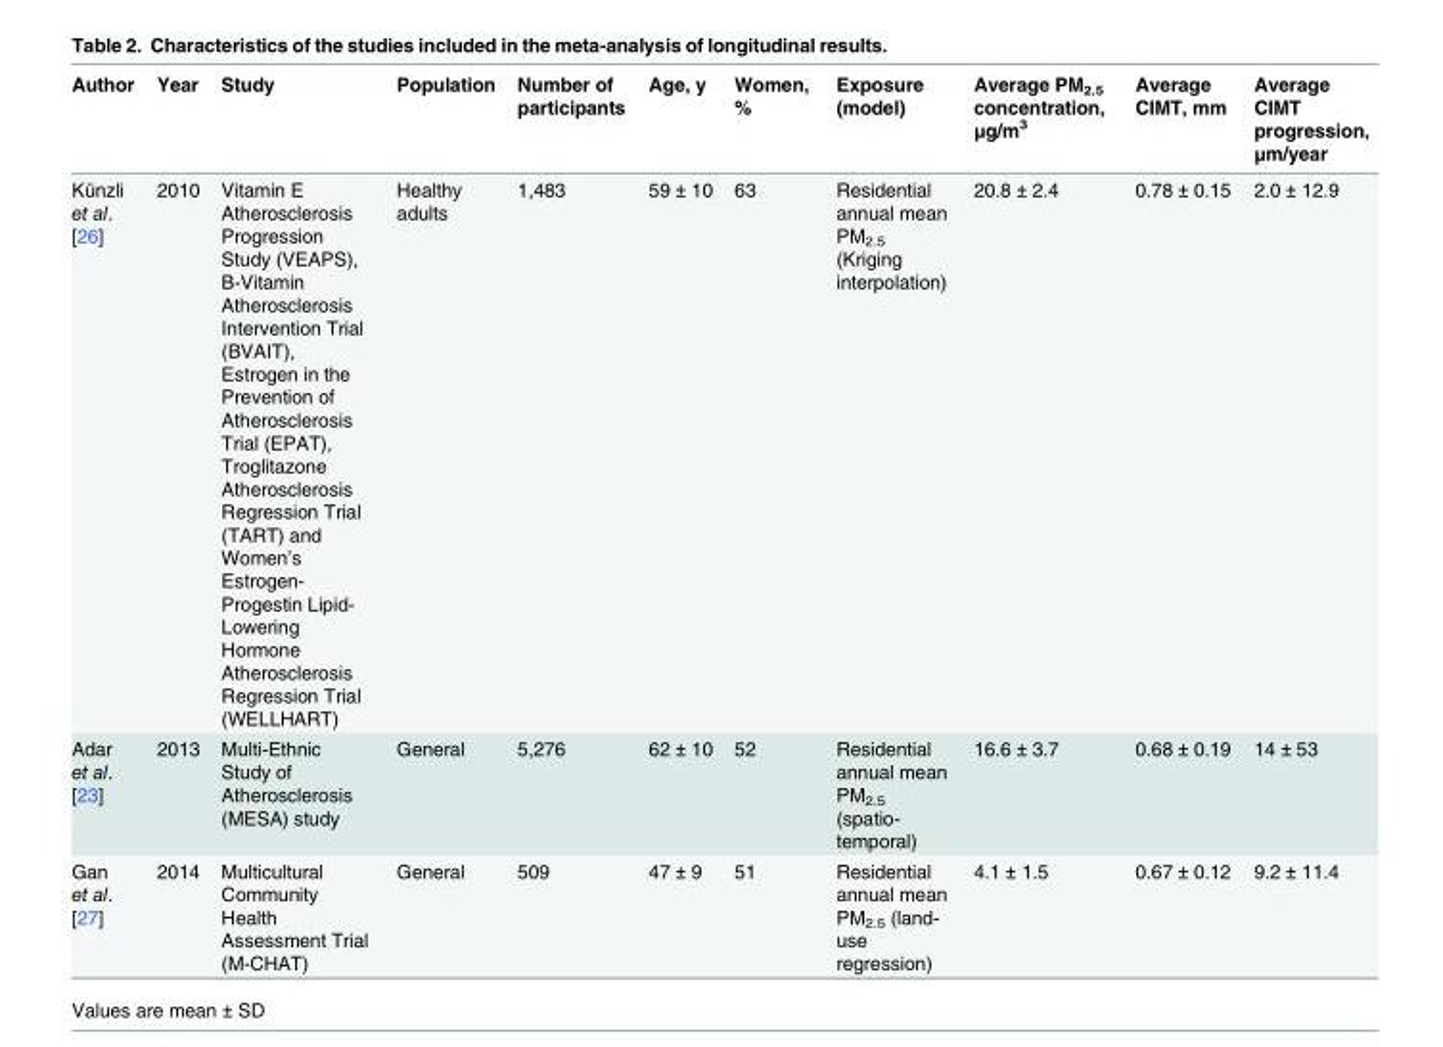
<table><thead><tr><td>Author</td><td>Year</td><td>Study</td><td>Population</td><td>Number of participants</td><td>Age, y</td><td>Women, %</td><td>Exposure (model)</td><td>Average PM<sub>2.5</sub> concentration, μg/m<sup>3</sup></td><td>Average CIMT, mm</td><td>Average CIMT progression, μm/year</td></tr></thead><tbody><tr><td>Künzli et al. [26]</td><td>2010</td><td>Vitamin E Atherosclerosis Progression Study (VEAPS), B-Vitamin Atherosclerosis Intervention Trial (BVAIT), Estrogen in the Prevention of Atherosclerosis Trial (EPAT), Troglitazone Atherosclerosis Regression Trial (TART) and Women’s Estrogen- Progestin Lipid- Lowering Hormone Atherosclerosis Regression Trial (WELLHART)</td><td>Healthy adults</td><td>1,483</td><td>59 ± 10</td><td>63</td><td>Residential annual mean PM<sub>2.5</sub> (Kriging interpolation)</td><td>20.8 ± 2.4</td><td>0.78 ± 0.15</td><td>2.0 ± 12.9</td></tr><tr><td>Adar et al. [23]</td><td>2013</td><td>Multi-Ethnic Study of Atherosclerosis (MESA) study</td><td>General</td><td>5,276</td><td>62 ± 10</td><td>52</td><td>Residential annual mean PM<sub>2.5</sub> (spatio- temporal)</td><td>16.6 ± 3.7</td><td>0.68 ± 0.19</td><td>14 ± 53</td></tr><tr><td>Gan et al. [27]</td><td>2014</td><td>Multicultural Community Health Assessment Trial (M-CHAT)</td><td>General</td><td>509</td><td>47 ± 9</td><td>51</td><td>Residential annual mean PM<sub>2.5</sub> (land- use regression)</td><td>4.1 ± 1.5</td><td>0.67 ± 0.12</td><td>9.2 ± 11.4</td></tr></tbody></table>